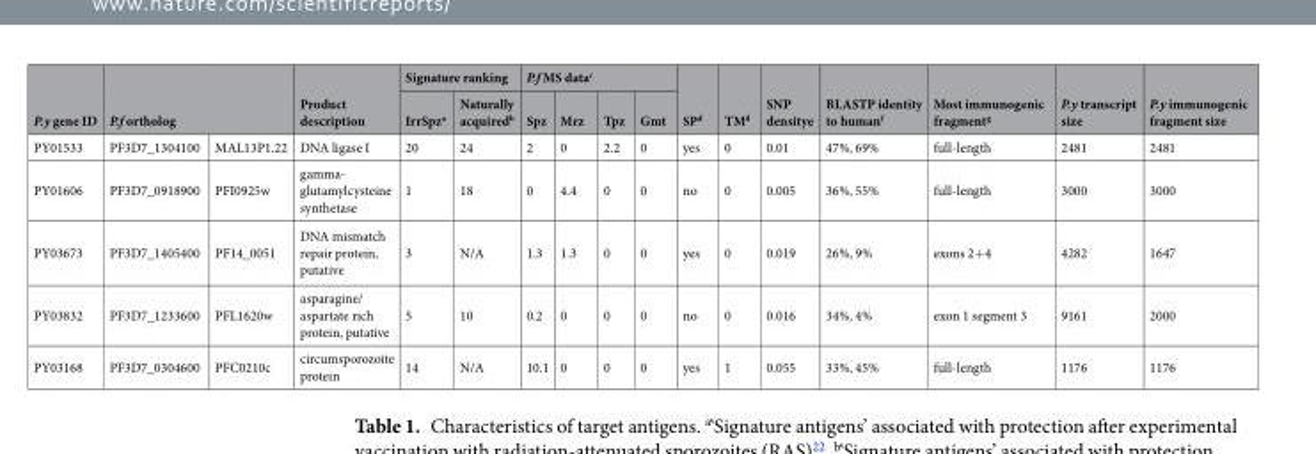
<table><thead><tr><td rowspan="3">P.y gene ID PY01533</td><td rowspan="2" colspan="2">P.f ortholog</td><td rowspan="3">Product description DNA ligase I</td><td colspan="2">Signature ranking</td><td colspan="4">P.f MS data<sup>c</sup></td><td rowspan="3">SP<sup>d</sup> yes</td><td rowspan="3">TM<sup>d</sup> 0</td><td rowspan="3">SNP densitye 0.01</td><td rowspan="3">BLASTP identity to human<sup>f</sup> 47%, 69%</td><td rowspan="3">Most immunogenic fragment<sup>g</sup> full-length</td><td rowspan="3">P.y transcript size 2481</td><td rowspan="3">P.y immunogenic fragment size 2481</td></tr><tr><td rowspan="2">IrrSpz<sup>a</sup> 20</td><td rowspan="2">Naturally acquired<sup>b</sup> 24</td><td rowspan="2">Spz 2</td><td rowspan="2">Mrz 0</td><td rowspan="2">Tpz 2.2</td><td rowspan="2">Gmt 0</td></tr><tr><td>PF3D7_1304100</td><td>MAL13P1.22</td></tr></thead><tbody><tr><td>PY01606</td><td>PF3D7_0918900</td><td>PFI0925w</td><td>gamma- glutamylcysteine synthetase</td><td>1</td><td>18</td><td>0</td><td>4.4</td><td>0</td><td>0</td><td>no</td><td>0</td><td>0.005</td><td>36%, 55%</td><td>full-length</td><td>3000</td><td>3000</td></tr><tr><td>PY03673</td><td>PF3D7_1405400</td><td>PF14_0051</td><td>DNA mismatch repair protein, putative</td><td>3</td><td>N/A</td><td>1.3</td><td>1.3</td><td>0</td><td>0</td><td>yes</td><td>0</td><td>0.019</td><td>26%, 9%</td><td>exons 2+4</td><td>4282</td><td>1647</td></tr><tr><td>PY03832</td><td>PF3D7_1233600</td><td>PFL1620w</td><td>asparagine/ aspartate rich protein, putative</td><td>5</td><td>10</td><td>0.2</td><td>0</td><td>0</td><td>0</td><td>no</td><td>0</td><td>0.016</td><td>34%, 4%</td><td>exon 1 segment 3</td><td>9161</td><td>2000</td></tr><tr><td>PY03168</td><td>PF3D7_0304600</td><td>PFC0210c</td><td>circumsporozoite protein</td><td>14</td><td>N/A</td><td>10.1</td><td>0</td><td>0</td><td>0</td><td>yes</td><td>1</td><td>0.055</td><td>33%, 45%</td><td>full-length</td><td>1176</td><td>1176</td></tr></tbody></table>